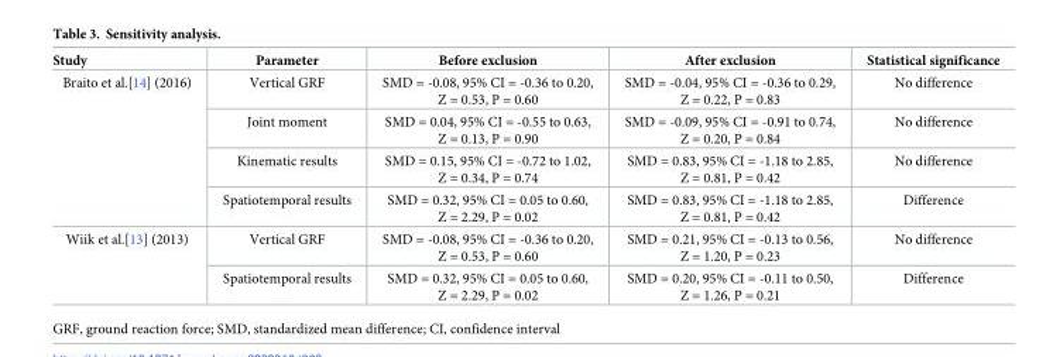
<table><thead><tr><td>Study</td><td>Parameter</td><td>Before exclusion</td><td>After exclusion</td><td>Statistical significance</td></tr></thead><tbody><tr><td rowspan="4">Braito et al.[14] (2016)</td><td>Vertical GRF</td><td>SMD = -0.08, 95% CI = -0.36 to 0.20, Z = 0.53, P = 0.60</td><td>SMD = -0.04, 95% CI = -0.36 to 0.29, Z = 0.22, P = 0.83</td><td>No difference</td></tr><tr><td>Joint moment</td><td>SMD = 0.04, 95% CI = -0.55 to 0.63, Z = 0.13, P = 0.90</td><td>SMD = -0.09, 95% CI = -0.91 to 0.74, Z = 0.20, P = 0.84</td><td>No difference</td></tr><tr><td>Kinematic results</td><td>SMD = 0.15, 95% CI = -0.72 to 1.02, Z = 0.34, P = 0.74</td><td>SMD = 0.83, 95% CI = -1.18 to 2.85, Z = 0.81, P = 0.42</td><td>No difference</td></tr><tr><td>Spatiotemporal results</td><td>SMD = 0.32, 95% CI = 0.05 to 0.60, Z = 2.29, P = 0.02</td><td>SMD = 0.83, 95% CI = -1.18 to 2.85, Z = 0.81, P = 0.42</td><td>Difference</td></tr><tr><td rowspan="2">Wiik et al.[13] (2013)</td><td>Vertical GRF</td><td>SMD = -0.08, 95% CI = -0.36 to 0.20, Z = 0.53, P = 0.60</td><td>SMD = 0.21, 95% CI = -0.13 to 0.56, Z = 1.20, P = 0.23</td><td>No difference</td></tr><tr><td>Spatiotemporal results</td><td>SMD = 0.32, 95% CI = 0.05 to 0.60, Z = 2.29, P = 0.02</td><td>SMD = 0.20, 95% CI = -0.11 to 0.50, Z = 1.26, P = 0.21</td><td>Difference</td></tr></tbody></table>